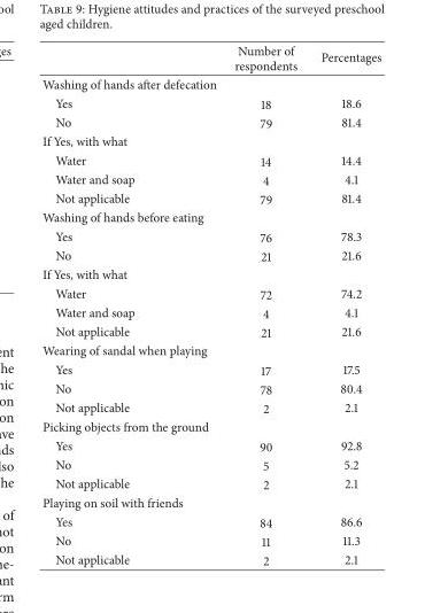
<table><thead><tr><td></td><td>Number of respondents</td><td>Percentages</td></tr></thead><tbody><tr><td colspan="3">Washing of hands after defecation</td></tr><tr><td>Yes</td><td>18</td><td>18.6</td></tr><tr><td>No</td><td>79</td><td>81.4</td></tr><tr><td colspan="3">If Yes, with what</td></tr><tr><td>Water</td><td>14</td><td>14.4</td></tr><tr><td>Water and soap</td><td>4</td><td>4.1</td></tr><tr><td>Not applicable</td><td>79</td><td>81.4</td></tr><tr><td colspan="3">Washing of hands before eating</td></tr><tr><td>Yes</td><td>76</td><td>78.3</td></tr><tr><td>No</td><td>21</td><td>21.6</td></tr><tr><td colspan="3">If Yes, with what</td></tr><tr><td>Water</td><td>72</td><td>74.2</td></tr><tr><td>Water and soap</td><td>4</td><td>4.1</td></tr><tr><td>Not applicable</td><td>21</td><td>21.6</td></tr><tr><td colspan="3">Wearing of sandal when playing</td></tr><tr><td>Yes</td><td>17</td><td>17.5</td></tr><tr><td>No</td><td>78</td><td>80.4</td></tr><tr><td>Not applicable</td><td>2</td><td>2.1</td></tr><tr><td colspan="3">Picking objects from the ground</td></tr><tr><td>Yes</td><td>90</td><td>92.8</td></tr><tr><td>No</td><td>5</td><td>5.2</td></tr><tr><td>Not applicable</td><td>2</td><td>2.1</td></tr><tr><td colspan="3">Playing on soil with friends</td></tr><tr><td>Yes</td><td>84</td><td>86.6</td></tr><tr><td>No</td><td>11</td><td>11.3</td></tr><tr><td>Not applicable</td><td>2</td><td>2.1</td></tr></tbody></table>